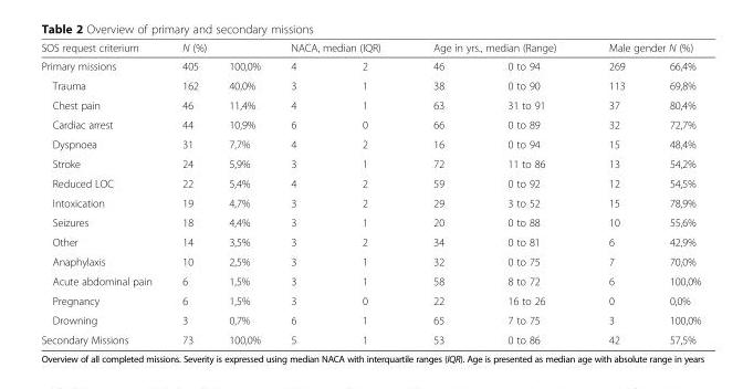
<table><thead><tr><td rowspan="2">SOS request criterium Primary missions</td><td colspan="2">N (%)</td><td colspan="2">NACA, median (IQR)</td><td colspan="2">Age in yrs., median (Range)</td><td colspan="2">Male gender N (%)</td></tr><tr><td>405</td><td>100,0%</td><td>4</td><td>2</td><td>46</td><td>0 to 94</td><td>269</td><td>66,4%</td></tr></thead><tbody><tr><td>Trauma</td><td>162</td><td>40,0%</td><td>3</td><td>1</td><td>38</td><td>0 to 90</td><td>113</td><td>69,8%</td></tr><tr><td>Chest pain</td><td>46</td><td>11,4%</td><td>4</td><td>1</td><td>63</td><td>31 to 91</td><td>37</td><td>80,4%</td></tr><tr><td>Cardiac arrest</td><td>44</td><td>10,9%</td><td>6</td><td>0</td><td>66</td><td>0 to 89</td><td>32</td><td>72,7%</td></tr><tr><td>Dyspnoea</td><td>31</td><td>7,7%</td><td>4</td><td>2</td><td>16</td><td>0 to 94</td><td>15</td><td>48,4%</td></tr><tr><td>Stroke</td><td>24</td><td>5,9%</td><td>3</td><td>1</td><td>72</td><td>11 to 86</td><td>13</td><td>54,2%</td></tr><tr><td>Reduced LOC</td><td>22</td><td>5,4%</td><td>4</td><td>2</td><td>59</td><td>0 to 92</td><td>12</td><td>54,5%</td></tr><tr><td>Intoxication</td><td>19</td><td>4,7%</td><td>3</td><td>2</td><td>29</td><td>3 to 52</td><td>15</td><td>78,9%</td></tr><tr><td>Seizures</td><td>18</td><td>4,4%</td><td>3</td><td>1</td><td>20</td><td>0 to 88</td><td>10</td><td>55,6%</td></tr><tr><td>Other</td><td>14</td><td>3,5%</td><td>3</td><td>2</td><td>34</td><td>0 to 81</td><td>6</td><td>42,9%</td></tr><tr><td>Anaphylaxis</td><td>10</td><td>2,5%</td><td>3</td><td>1</td><td>32</td><td>0 to 75</td><td>7</td><td>70,0%</td></tr><tr><td>Acute abdominal pain</td><td>6</td><td>1,5%</td><td>3</td><td>1</td><td>58</td><td>8 to 72</td><td>6</td><td>100,0%</td></tr><tr><td>Pregnancy</td><td>6</td><td>1,5%</td><td>3</td><td>0</td><td>22</td><td>16 to 26</td><td>0</td><td>0,0%</td></tr><tr><td>Drowning</td><td>3</td><td>0,7%</td><td>6</td><td>1</td><td>65</td><td>7 to 75</td><td>3</td><td>100,0%</td></tr><tr><td>Secondary Missions</td><td>73</td><td>100,0%</td><td>5</td><td>1</td><td>53</td><td>0 to 86</td><td>42</td><td>57,5%</td></tr></tbody></table>